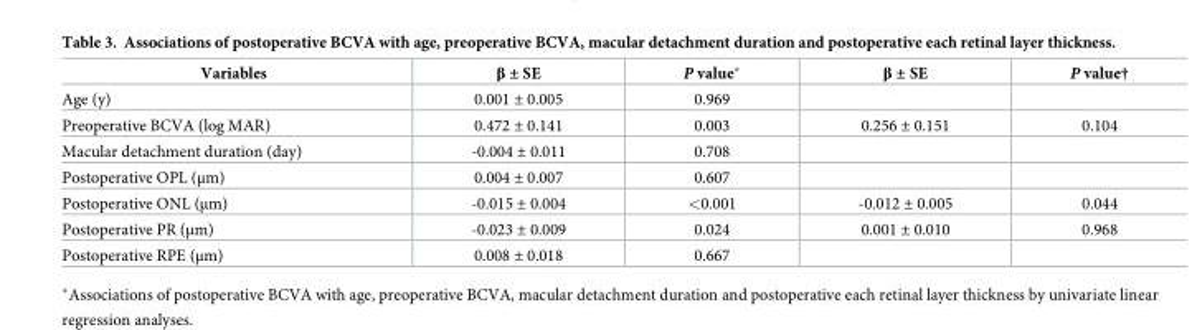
<table><thead><tr><td>Variables</td><td>β ± SE</td><td>P value*</td><td>β ± SE</td><td>P value†</td></tr></thead><tbody><tr><td>Age (y)</td><td>0.001 ± 0.005</td><td>0.969</td><td></td><td></td></tr><tr><td>Preoperative BCVA (log MAR)</td><td>0.472 ± 0.141</td><td>0.003</td><td>0.256 ± 0.151</td><td>0.104</td></tr><tr><td>Macular detachment duration (day)</td><td>-0.004 ± 0.011</td><td>0.708</td><td></td><td></td></tr><tr><td>Postoperative OPL (μm)</td><td>0.004 ± 0.007</td><td>0.607</td><td></td><td></td></tr><tr><td>Postoperative ONL (μm)</td><td>-0.015 ± 0.004</td><td>&lt;0.001</td><td>-0.012 ± 0.005</td><td>0.044</td></tr><tr><td>Postoperative PR (μm)</td><td>-0.023 ± 0.009</td><td>0.024</td><td>0.001 ± 0.010</td><td>0.968</td></tr><tr><td>Postoperative RPE (μm)</td><td>0.008 ± 0.018</td><td>0.667</td><td></td><td></td></tr></tbody></table>